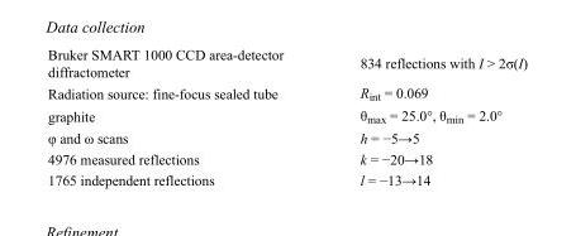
<table><tbody><tr><td>Bruker SMART 1000 CCD area-detector diffractometer</td><td>834 reflections with I &gt; 2σ(I)</td></tr><tr><td>Radiation source: fine-focus sealed tube</td><td>R<sub>int</sub> = 0.069</td></tr><tr><td>graphite</td><td>θ<sub>max</sub> = 25.0°, θ<sub>min</sub> = 2.0°</td></tr><tr><td>φ and ω scans</td><td>h = −5→5</td></tr><tr><td>4976 measured reflections</td><td>k = −20→18</td></tr><tr><td>1765 independent reflections</td><td>l = −13→14</td></tr></tbody></table>